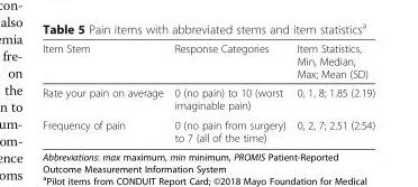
<table><thead><tr><td>Item Stem</td><td>Response Categories</td><td>Item Statistics, Min, Median, Max; Mean (SD)</td></tr></thead><tbody><tr><td>Rate your pain on average</td><td>0 (no pain) to 10 (worst imaginable pain)</td><td>0, 1, 8; 1.85 (2.19)</td></tr><tr><td>Frequency of pain</td><td>0 (no pain from surgery) to 7 (all of the time)</td><td>0, 2, 7; 2.51 (2.54)</td></tr></tbody></table>